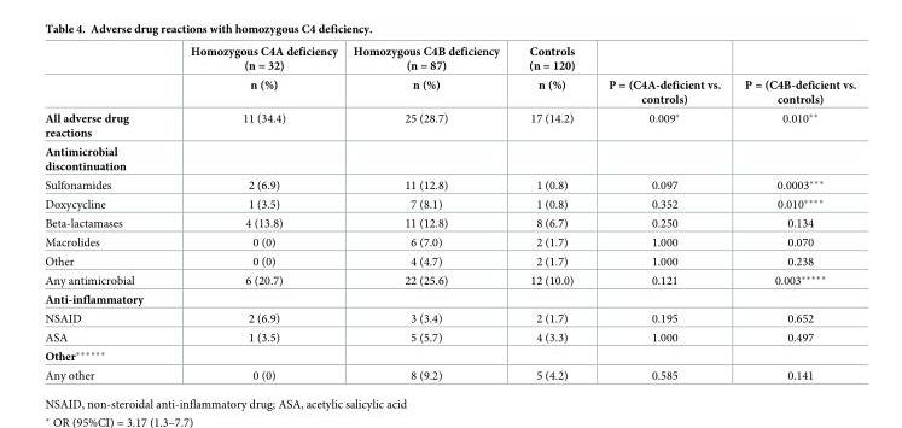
<table><thead><tr><td rowspan="2"></td><td rowspan="2">Homozygous C4A deficiency (n = 32) n (%)</td><td rowspan="2">Homozygous C4B deficiency (n = 87) n (%)</td><td rowspan="2">Controls (n = 120) n (%)</td><td rowspan="2">P = (C4A-deficient vs. controls)</td><td rowspan="2">P = (C4B-deficient vs. controls)</td></tr><tr></tr></thead><tbody><tr><td>All adverse drug reactions</td><td>11 (34.4)</td><td>25 (28.7)</td><td>17 (14.2)</td><td>0.009*</td><td>0.010**</td></tr><tr><td colspan="6">Antimicrobial discontinuation</td></tr><tr><td>Sulfonamides</td><td>2 (6.9)</td><td>11 (12.8)</td><td>1 (0.8)</td><td>0.097</td><td>0.0003***</td></tr><tr><td>Doxycycline</td><td>1 (3.5)</td><td>7 (8.1)</td><td>1 (0.8)</td><td>0.352</td><td>0.010****</td></tr><tr><td>Beta-lactamases</td><td>4 (13.8)</td><td>11 (12.8)</td><td>8 (6.7)</td><td>0.250</td><td>0.134</td></tr><tr><td>Macrolides</td><td>0 (0)</td><td>6 (7.0)</td><td>2 (1.7)</td><td>1.000</td><td>0.070</td></tr><tr><td>Other</td><td>0 (0)</td><td>4 (4.7)</td><td>2 (1.7)</td><td>1.000</td><td>0.238</td></tr><tr><td>Any antimicrobial</td><td>6 (20.7)</td><td>22 (25.6)</td><td>12 (10.0)</td><td>0.121</td><td>0.003*****</td></tr><tr><td colspan="6">Anti-inflammatory</td></tr><tr><td>NSAID</td><td>2 (6.9)</td><td>3 (3.4)</td><td>2 (1.7)</td><td>0.195</td><td>0.652</td></tr><tr><td>ASA</td><td>1 (3.5)</td><td>5 (5.7)</td><td>4 (3.3)</td><td>1.000</td><td>0.497</td></tr><tr><td colspan="6">Other******</td></tr><tr><td>Any other</td><td>0 (0)</td><td>8 (9.2)</td><td>5 (4.2)</td><td>0.585</td><td>0.141</td></tr></tbody></table>